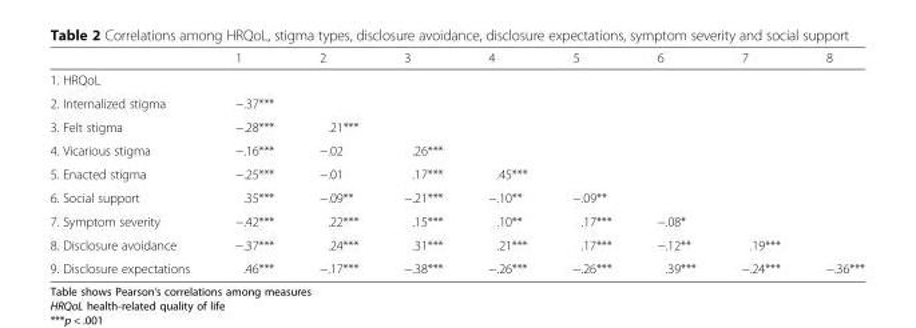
<table><thead><tr><td></td><td>1</td><td>2</td><td>3</td><td>4</td><td>5</td><td>6</td><td>7</td><td>8</td></tr></thead><tbody><tr><td colspan="9">1. HRQoL</td></tr><tr><td>2. Internalized stigma</td><td>−.37***</td><td></td><td></td><td></td><td></td><td></td><td></td><td></td></tr><tr><td>3. Felt stigma</td><td>−.28***</td><td>.21***</td><td></td><td></td><td></td><td></td><td></td><td></td></tr><tr><td>4. Vicarious stigma</td><td>−.16***</td><td>−.02</td><td>.26***</td><td></td><td></td><td></td><td></td><td></td></tr><tr><td>5. Enacted stigma</td><td>−.25***</td><td>−.01</td><td>.17***</td><td>.45***</td><td></td><td></td><td></td><td></td></tr><tr><td>6. Social support</td><td>.35***</td><td>−.09**</td><td>−.21***</td><td>−.10**</td><td>−.09**</td><td></td><td></td><td></td></tr><tr><td>7. Symptom severity</td><td>−.42***</td><td>.22***</td><td>.15***</td><td>.10**</td><td>.17***</td><td>−.08*</td><td></td><td></td></tr><tr><td>8. Disclosure avoidance</td><td>−.37***</td><td>.24***</td><td>.31***</td><td>.21***</td><td>.17***</td><td>−.12**</td><td>.19***</td><td></td></tr><tr><td>9. Disclosure expectations</td><td>.46***</td><td>−.17***</td><td>−.38***</td><td>−.26***</td><td>−.26***</td><td>.39***</td><td>−.24***</td><td>−.36***</td></tr></tbody></table>